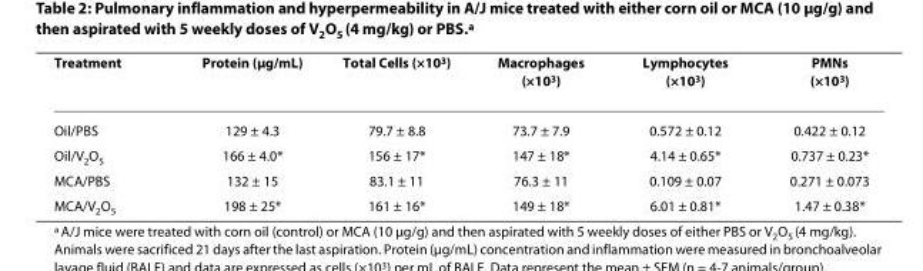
<table><thead><tr><td>Treatment</td><td>Protein (μg/mL)</td><td>Total Cells (×10<sup>3</sup>)</td><td>Macrophages (×10<sup>3</sup>)</td><td>Lymphocytes (×10<sup>3</sup>)</td><td>PMNs (×10<sup>3</sup>)</td></tr></thead><tbody><tr><td>Oil/PBS</td><td>129 ± 4.3</td><td>79.7 ± 8.8</td><td>73.7 ± 7.9</td><td>0.572 ± 0.12</td><td>0.422 ± 0.12</td></tr><tr><td>Oil/V<sub>2</sub>O<sub>5</sub></td><td>166 ± 4.0*</td><td>156 ± 17*</td><td>147 ± 18*</td><td>4.14 ± 0.65*</td><td>0.737 ± 0.23*</td></tr><tr><td>MCA/PBS</td><td>132 ± 15</td><td>83.1 ± 11</td><td>76.3 ± 11</td><td>0.109 ± 0.07</td><td>0.271 ± 0.073</td></tr><tr><td>MCA/V<sub>2</sub>O<sub>5</sub></td><td>198 ± 25*</td><td>161 ± 16*</td><td>149 ± 18*</td><td>6.01 ± 0.81*</td><td>1.47 ± 0.38*</td></tr></tbody></table>